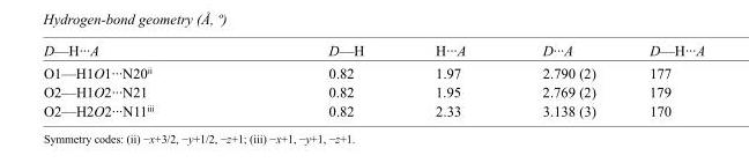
<table><tbody><tr><td>D—H···A</td><td>D—H</td><td>H···A</td><td>D···A</td><td>D—H···A</td></tr><tr><td>O1—H1O1···N20<sup>ii</sup></td><td>0.82</td><td>1.97</td><td>2.790 (2)</td><td>177</td></tr><tr><td>O2—H1O2···N21</td><td>0.82</td><td>1.95</td><td>2.769 (2)</td><td>179</td></tr><tr><td>O2—H2O2···N11<sup>iii</sup></td><td>0.82</td><td>2.33</td><td>3.138 (3)</td><td>170</td></tr></tbody></table>